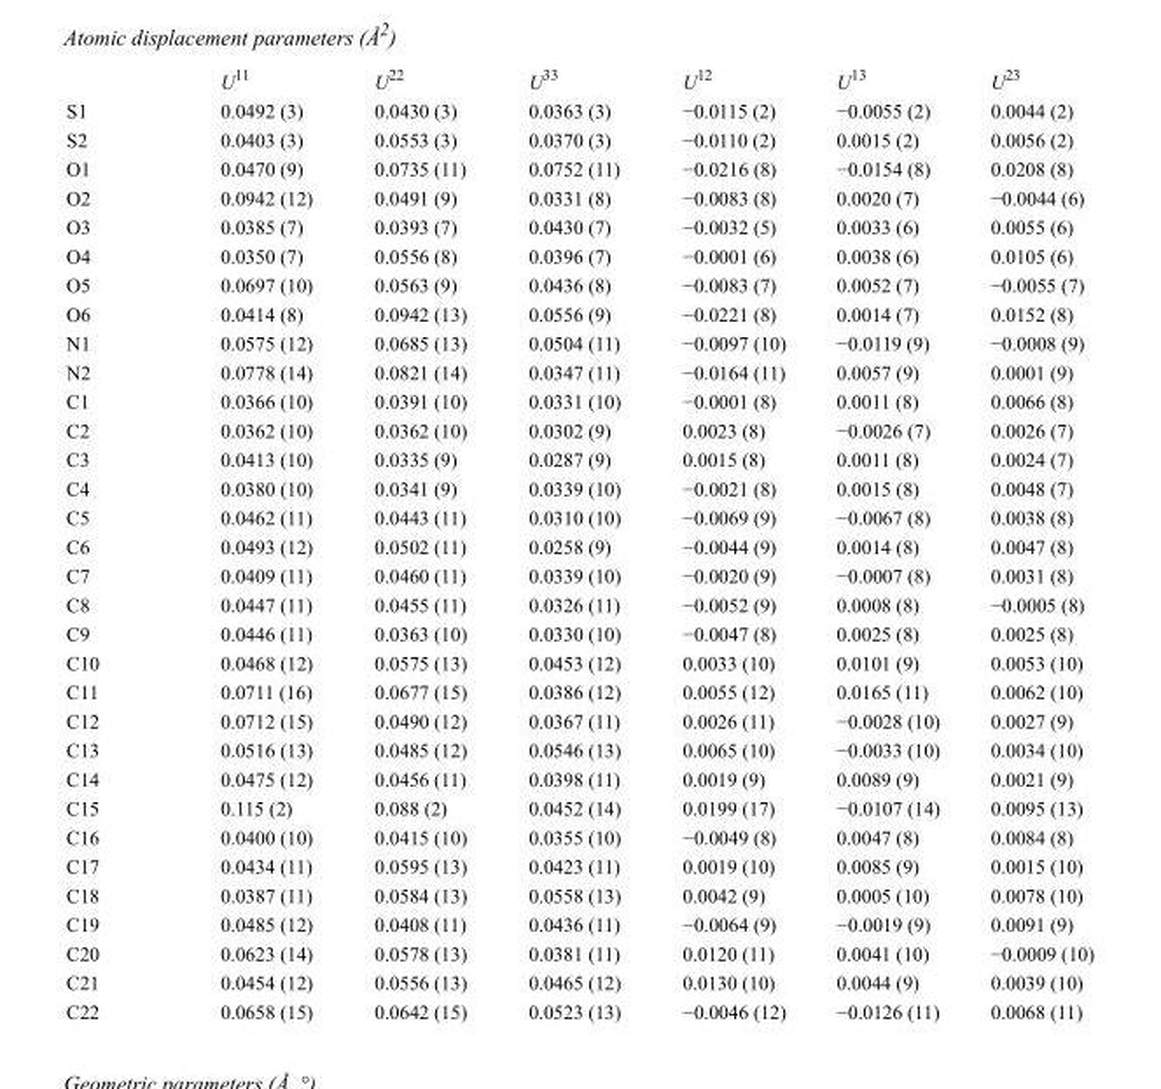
<table><thead><tr><td></td><td>U<sup>11</sup></td><td>U<sup>22</sup></td><td>U<sup>33</sup></td><td>U<sup>12</sup></td><td>U<sup>13</sup></td><td>U<sup>23</sup></td></tr></thead><tbody><tr><td>S1</td><td>0.0492 (3)</td><td>0.0430 (3)</td><td>0.0363 (3)</td><td>−0.0115 (2)</td><td>−0.0055 (2)</td><td>0.0044 (2)</td></tr><tr><td>S2</td><td>0.0403 (3)</td><td>0.0553 (3)</td><td>0.0370 (3)</td><td>−0.0110 (2)</td><td>0.0015 (2)</td><td>0.0056 (2)</td></tr><tr><td>O1</td><td>0.0470 (9)</td><td>0.0735 (11)</td><td>0.0752 (11)</td><td>−0.0216 (8)</td><td>−0.0154 (8)</td><td>0.0208 (8)</td></tr><tr><td>O2</td><td>0.0942 (12)</td><td>0.0491 (9)</td><td>0.0331 (8)</td><td>−0.0083 (8)</td><td>0.0020 (7)</td><td>−0.0044 (6)</td></tr><tr><td>O3</td><td>0.0385 (7)</td><td>0.0393 (7)</td><td>0.0430 (7)</td><td>−0.0032 (5)</td><td>0.0033 (6)</td><td>0.0055 (6)</td></tr><tr><td>O4</td><td>0.0350 (7)</td><td>0.0556 (8)</td><td>0.0396 (7)</td><td>−0.0001 (6)</td><td>0.0038 (6)</td><td>0.0105 (6)</td></tr><tr><td>O5</td><td>0.0697 (10)</td><td>0.0563 (9)</td><td>0.0436 (8)</td><td>−0.0083 (7)</td><td>0.0052 (7)</td><td>−0.0055 (7)</td></tr><tr><td>O6</td><td>0.0414 (8)</td><td>0.0942 (13)</td><td>0.0556 (9)</td><td>−0.0221 (8)</td><td>0.0014 (7)</td><td>0.0152 (8)</td></tr><tr><td>N1</td><td>0.0575 (12)</td><td>0.0685 (13)</td><td>0.0504 (11)</td><td>−0.0097 (10)</td><td>−0.0119 (9)</td><td>−0.0008 (9)</td></tr><tr><td>N2</td><td>0.0778 (14)</td><td>0.0821 (14)</td><td>0.0347 (11)</td><td>−0.0164 (11)</td><td>0.0057 (9)</td><td>0.0001 (9)</td></tr><tr><td>C1</td><td>0.0366 (10)</td><td>0.0391 (10)</td><td>0.0331 (10)</td><td>−0.0001 (8)</td><td>0.0011 (8)</td><td>0.0066 (8)</td></tr><tr><td>C2</td><td>0.0362 (10)</td><td>0.0362 (10)</td><td>0.0302 (9)</td><td>0.0023 (8)</td><td>−0.0026 (7)</td><td>0.0026 (7)</td></tr><tr><td>C3</td><td>0.0413 (10)</td><td>0.0335 (9)</td><td>0.0287 (9)</td><td>0.0015 (8)</td><td>0.0011 (8)</td><td>0.0024 (7)</td></tr><tr><td>C4</td><td>0.0380 (10)</td><td>0.0341 (9)</td><td>0.0339 (10)</td><td>−0.0021 (8)</td><td>0.0015 (8)</td><td>0.0048 (7)</td></tr><tr><td>C5</td><td>0.0462 (11)</td><td>0.0443 (11)</td><td>0.0310 (10)</td><td>−0.0069 (9)</td><td>−0.0067 (8)</td><td>0.0038 (8)</td></tr><tr><td>C6</td><td>0.0493 (12)</td><td>0.0502 (11)</td><td>0.0258 (9)</td><td>−0.0044 (9)</td><td>0.0014 (8)</td><td>0.0047 (8)</td></tr><tr><td>C7</td><td>0.0409 (11)</td><td>0.0460 (11)</td><td>0.0339 (10)</td><td>−0.0020 (9)</td><td>−0.0007 (8)</td><td>0.0031 (8)</td></tr><tr><td>C8</td><td>0.0447 (11)</td><td>0.0455 (11)</td><td>0.0326 (11)</td><td>−0.0052 (9)</td><td>0.0008 (8)</td><td>−0.0005 (8)</td></tr><tr><td>C9</td><td>0.0446 (11)</td><td>0.0363 (10)</td><td>0.0330 (10)</td><td>−0.0047 (8)</td><td>0.0025 (8)</td><td>0.0025 (8)</td></tr><tr><td>C10</td><td>0.0468 (12)</td><td>0.0575 (13)</td><td>0.0453 (12)</td><td>0.0033 (10)</td><td>0.0101 (9)</td><td>0.0053 (10)</td></tr><tr><td>C11</td><td>0.0711 (16)</td><td>0.0677 (15)</td><td>0.0386 (12)</td><td>0.0055 (12)</td><td>0.0165 (11)</td><td>0.0062 (10)</td></tr><tr><td>C12</td><td>0.0712 (15)</td><td>0.0490 (12)</td><td>0.0367 (11)</td><td>0.0026 (11)</td><td>−0.0028 (10)</td><td>0.0027 (9)</td></tr><tr><td>C13</td><td>0.0516 (13)</td><td>0.0485 (12)</td><td>0.0546 (13)</td><td>0.0065 (10)</td><td>−0.0033 (10)</td><td>0.0034 (10)</td></tr><tr><td>C14</td><td>0.0475 (12)</td><td>0.0456 (11)</td><td>0.0398 (11)</td><td>0.0019 (9)</td><td>0.0089 (9)</td><td>0.0021 (9)</td></tr><tr><td>C15</td><td>0.115 (2)</td><td>0.088 (2)</td><td>0.0452 (14)</td><td>0.0199 (17)</td><td>−0.0107 (14)</td><td>0.0095 (13)</td></tr><tr><td>C16</td><td>0.0400 (10)</td><td>0.0415 (10)</td><td>0.0355 (10)</td><td>−0.0049 (8)</td><td>0.0047 (8)</td><td>0.0084 (8)</td></tr><tr><td>C17</td><td>0.0434 (11)</td><td>0.0595 (13)</td><td>0.0423 (11)</td><td>0.0019 (10)</td><td>0.0085 (9)</td><td>0.0015 (10)</td></tr><tr><td>C18</td><td>0.0387 (11)</td><td>0.0584 (13)</td><td>0.0558 (13)</td><td>0.0042 (9)</td><td>0.0005 (10)</td><td>0.0078 (10)</td></tr><tr><td>C19</td><td>0.0485 (12)</td><td>0.0408 (11)</td><td>0.0436 (11)</td><td>−0.0064 (9)</td><td>−0.0019 (9)</td><td>0.0091 (9)</td></tr><tr><td>C20</td><td>0.0623 (14)</td><td>0.0578 (13)</td><td>0.0381 (11)</td><td>0.0120 (11)</td><td>0.0041 (10)</td><td>−0.0009 (10)</td></tr><tr><td>C21</td><td>0.0454 (12)</td><td>0.0556 (13)</td><td>0.0465 (12)</td><td>0.0130 (10)</td><td>0.0044 (9)</td><td>0.0039 (10)</td></tr><tr><td>C22</td><td>0.0658 (15)</td><td>0.0642 (15)</td><td>0.0523 (13)</td><td>−0.0046 (12)</td><td>−0.0126 (11)</td><td>0.0068 (11)</td></tr></tbody></table>